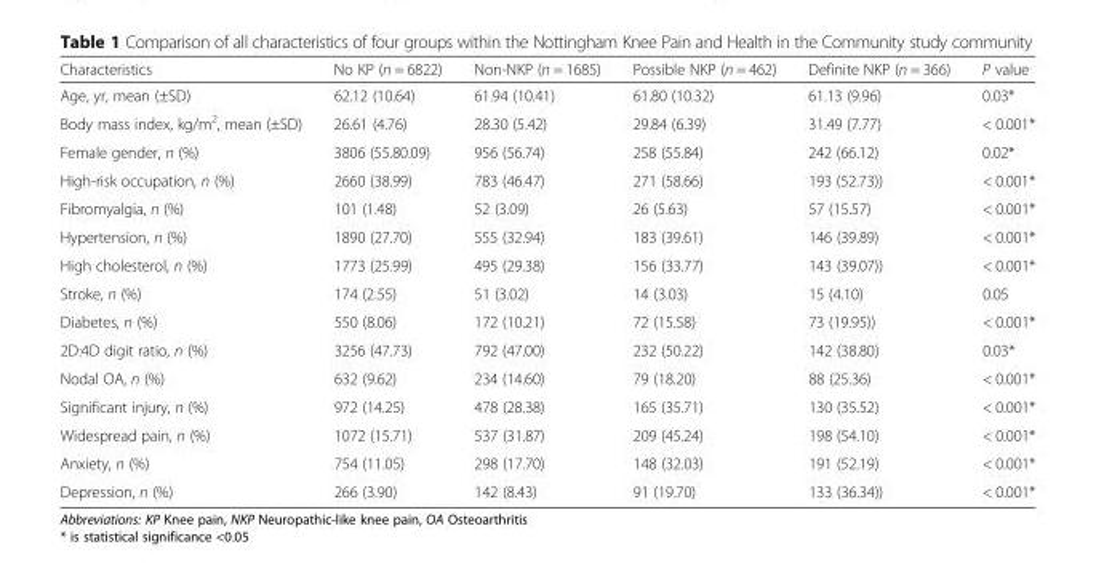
<table><thead><tr><td>Characteristics</td><td>No KP (n = 6822)</td><td>Non-NKP (n = 1685)</td><td>Possible NKP (n = 462)</td><td>Definite NKP (n = 366)</td><td>P value</td></tr></thead><tbody><tr><td>Age, yr, mean (±SD)</td><td>62.12 (10.64)</td><td>61.94 (10.41)</td><td>61.80 (10.32)</td><td>61.13 (9.96)</td><td>0.03*</td></tr><tr><td>Body mass index, kg/m<sup>2</sup>, mean (±SD)</td><td>26.61 (4.76)</td><td>28.30 (5.42)</td><td>29.84 (6.39)</td><td>31.49 (7.77)</td><td>&lt; 0.001*</td></tr><tr><td>Female gender, n (%)</td><td>3806 (55.80.09)</td><td>956 (56.74)</td><td>258 (55.84)</td><td>242 (66.12)</td><td>0.02*</td></tr><tr><td>High-risk occupation, n (%)</td><td>2660 (38.99)</td><td>783 (46.47)</td><td>271 (58.66)</td><td>193 (52.73))</td><td>&lt; 0.001*</td></tr><tr><td>Fibromyalgia, n (%)</td><td>101 (1.48)</td><td>52 (3.09)</td><td>26 (5.63)</td><td>57 (15.57)</td><td>&lt; 0.001*</td></tr><tr><td>Hypertension, n (%)</td><td>1890 (27.70)</td><td>555 (32.94)</td><td>183 (39.61)</td><td>146 (39.89)</td><td>&lt; 0.001*</td></tr><tr><td>High cholesterol, n (%)</td><td>1773 (25.99)</td><td>495 (29.38)</td><td>156 (33.77)</td><td>143 (39.07))</td><td>&lt; 0.001*</td></tr><tr><td>Stroke, n (%)</td><td>174 (2.55)</td><td>51 (3.02)</td><td>14 (3.03)</td><td>15 (4.10)</td><td>0.05</td></tr><tr><td>Diabetes, n (%)</td><td>550 (8.06)</td><td>172 (10.21)</td><td>72 (15.58)</td><td>73 (19.95))</td><td>&lt; 0.001*</td></tr><tr><td>2D:4D digit ratio, n (%)</td><td>3256 (47.73)</td><td>792 (47.00)</td><td>232 (50.22)</td><td>142 (38.80)</td><td>0.03*</td></tr><tr><td>Nodal OA, n (%)</td><td>632 (9.62)</td><td>234 (14.60)</td><td>79 (18.20)</td><td>88 (25.36)</td><td>&lt; 0.001*</td></tr><tr><td>Significant injury, n (%)</td><td>972 (14.25)</td><td>478 (28.38)</td><td>165 (35.71)</td><td>130 (35.52)</td><td>&lt; 0.001*</td></tr><tr><td>Widespread pain, n (%)</td><td>1072 (15.71)</td><td>537 (31.87)</td><td>209 (45.24)</td><td>198 (54.10)</td><td>&lt; 0.001*</td></tr><tr><td>Anxiety, n (%)</td><td>754 (11.05)</td><td>298 (17.70)</td><td>148 (32.03)</td><td>191 (52.19)</td><td>&lt; 0.001*</td></tr><tr><td>Depression, n (%)</td><td>266 (3.90)</td><td>142 (8.43)</td><td>91 (19.70)</td><td>133 (36.34))</td><td>&lt; 0.001*</td></tr></tbody></table>